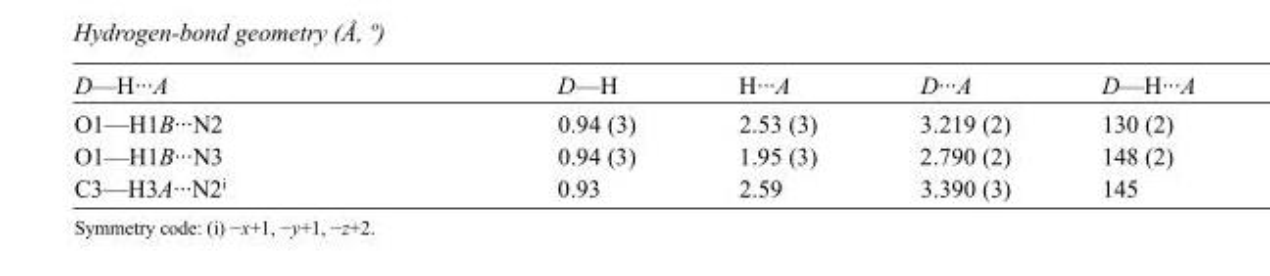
<table><tbody><tr><td>D—H···A</td><td>D—H</td><td>H···A</td><td>D···A</td><td>D—H···A</td></tr><tr><td>O1—H1B···N2</td><td>0.94 (3)</td><td>2.53 (3)</td><td>3.219 (2)</td><td>130 (2)</td></tr><tr><td>O1—H1B···N3</td><td>0.94 (3)</td><td>1.95 (3)</td><td>2.790 (2)</td><td>148 (2)</td></tr><tr><td>C3—H3A···N2<sup>i</sup></td><td>0.93</td><td>2.59</td><td>3.390 (3)</td><td>145</td></tr></tbody></table>